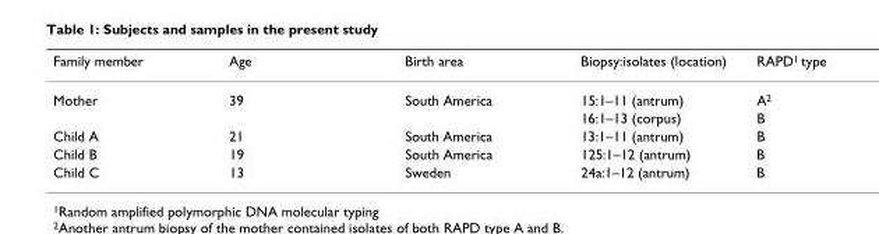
<table><thead><tr><td>Family member</td><td>Age</td><td>Birth area</td><td>Biopsy:isolates (location)</td><td>RAPD<sup>1</sup> type</td></tr></thead><tbody><tr><td rowspan="2">Mother</td><td>39</td><td>South America</td><td>15:1–11 (antrum)</td><td>A<sup>2</sup></td></tr><tr><td></td><td></td><td>16:1–13 (corpus)</td><td>B</td></tr><tr><td>Child A</td><td>21</td><td>South America</td><td>13:1–11 (antrum)</td><td>B</td></tr><tr><td>Child B</td><td>19</td><td>South America</td><td>125:1–12 (antrum)</td><td>B</td></tr><tr><td>Child C</td><td>13</td><td>Sweden</td><td>24a:1–12 (antrum)</td><td>B</td></tr></tbody></table>